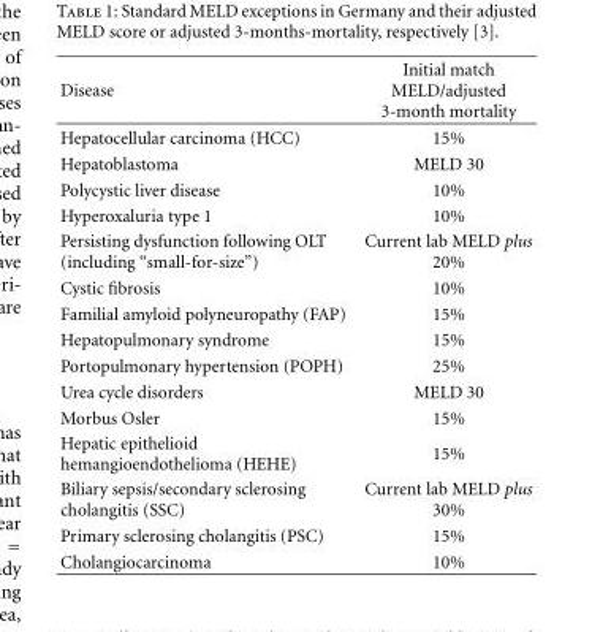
<table><thead><tr><td>Disease</td><td>Initial match MELD/adjusted 3-month mortality</td></tr></thead><tbody><tr><td>Hepatocellular carcinoma (HCC)</td><td>15%</td></tr><tr><td>Hepatoblastoma</td><td>MELD 30</td></tr><tr><td>Polycystic liver disease</td><td>10%</td></tr><tr><td>Hyperoxaluria type 1</td><td>10%</td></tr><tr><td>Persisting dysfunction following OLT (including “small-for-size”)</td><td>Current lab MELD plus 20%</td></tr><tr><td>Cystic fibrosis</td><td>10%</td></tr><tr><td>Familial amyloid polyneuropathy (FAP)</td><td>15%</td></tr><tr><td>Hepatopulmonary syndrome</td><td>15%</td></tr><tr><td>Portopulmonary hypertension (POPH)</td><td>25%</td></tr><tr><td>Urea cycle disorders</td><td>MELD 30</td></tr><tr><td>Morbus Osler</td><td>15%</td></tr><tr><td>Hepatic epithelioid hemangioendothelioma (HEHE)</td><td>15%</td></tr><tr><td>Biliary sepsis/secondary sclerosing cholangitis (SSC)</td><td>Current lab MELD plus 30%</td></tr><tr><td>Primary sclerosing cholangitis (PSC)</td><td>15%</td></tr><tr><td>Cholangiocarcinoma</td><td>10%</td></tr></tbody></table>